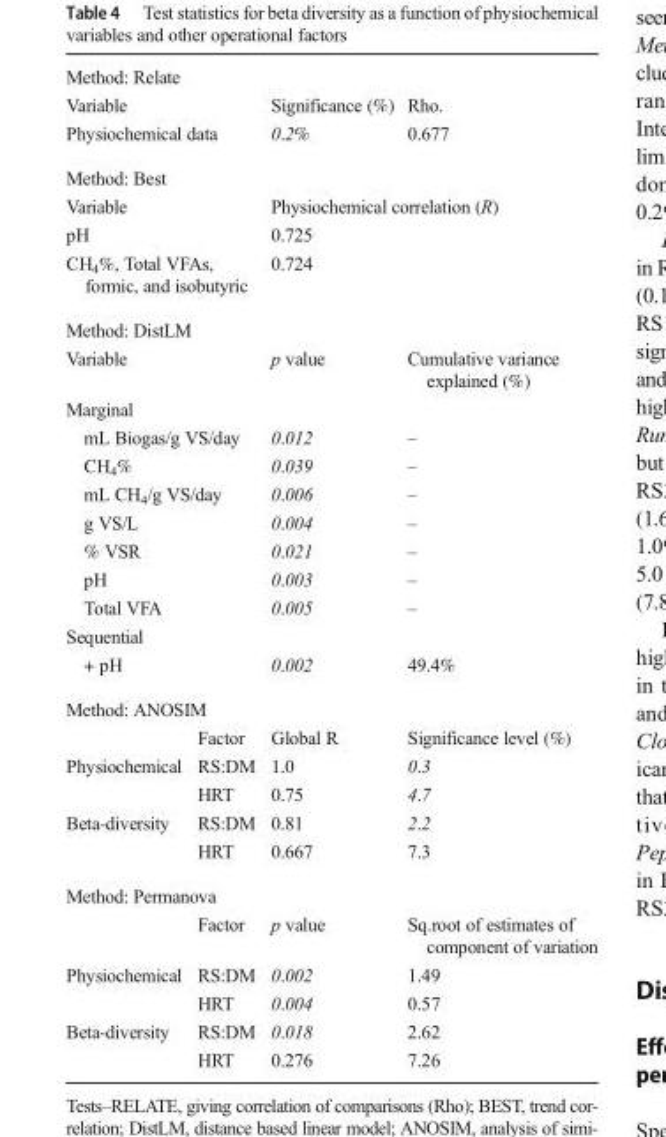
<table><tbody><tr><td colspan="4">Method: Relate</td></tr><tr><td colspan="2">Variable</td><td>Significance (%)</td><td>Rho.</td></tr><tr><td colspan="2">Physiochemical data</td><td>0.2%</td><td>0.677</td></tr><tr><td colspan="4">Method: Best</td></tr><tr><td colspan="2">Variable</td><td colspan="2">Physiochemical correlation (R)</td></tr><tr><td colspan="2">pH</td><td colspan="2">0.725</td></tr><tr><td colspan="2">CH<sub>4</sub>%, Total VFAs, formic, and isobutyric</td><td colspan="2">0.724</td></tr><tr><td colspan="4">Method: DistLM</td></tr><tr><td colspan="2">Variable</td><td>p value</td><td>Cumulative variance explained (%)</td></tr><tr><td colspan="4">Marginal</td></tr><tr><td colspan="2">mL Biogas/g VS/day</td><td>0.012</td><td>–</td></tr><tr><td colspan="2">CH<sub>4</sub>%</td><td>0.039</td><td>–</td></tr><tr><td colspan="2">mL CH<sub>4</sub>/g VS/day</td><td>0.006</td><td>–</td></tr><tr><td colspan="2">g VS/L</td><td>0.004</td><td>–</td></tr><tr><td colspan="2">% VSR</td><td>0.021</td><td>–</td></tr><tr><td colspan="2">pH</td><td>0.003</td><td>–</td></tr><tr><td colspan="2">Total VFA</td><td>0.005</td><td>–</td></tr><tr><td colspan="4">Sequential</td></tr><tr><td colspan="2">+ pH</td><td>0.002</td><td>49.4%</td></tr><tr><td colspan="4">Method: ANOSIM</td></tr><tr><td></td><td>Factor</td><td>Global R</td><td>Significance level (%)</td></tr><tr><td rowspan="2">Physiochemical</td><td>RS:DM</td><td>1.0</td><td>0.3</td></tr><tr><td>HRT</td><td>0.75</td><td>4.7</td></tr><tr><td rowspan="2">Beta-diversity</td><td>RS:DM</td><td>0.81</td><td>2.2</td></tr><tr><td>HRT</td><td>0.667</td><td>7.3</td></tr><tr><td colspan="4">Method: Permanova</td></tr><tr><td></td><td>Factor</td><td>p value</td><td>Sq.root of estimates of component of variation</td></tr><tr><td rowspan="2">Physiochemical</td><td>RS:DM</td><td>0.002</td><td>1.49</td></tr><tr><td>HRT</td><td>0.004</td><td>0.57</td></tr><tr><td rowspan="2">Beta-diversity</td><td>RS:DM</td><td>0.018</td><td>2.62</td></tr><tr><td>HRT</td><td>0.276</td><td>7.26</td></tr></tbody></table>